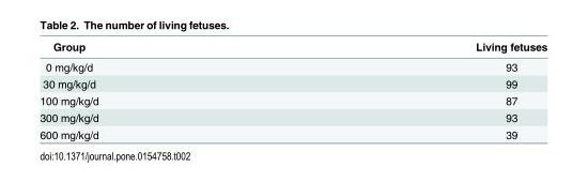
<table><thead><tr><td>Group</td><td>Living fetuses</td></tr></thead><tbody><tr><td>0 mg/kg/d</td><td>93</td></tr><tr><td>30 mg/kg/d</td><td>99</td></tr><tr><td>100 mg/kg/d</td><td>87</td></tr><tr><td>300 mg/kg/d</td><td>93</td></tr><tr><td>600 mg/kg/d</td><td>39</td></tr></tbody></table>